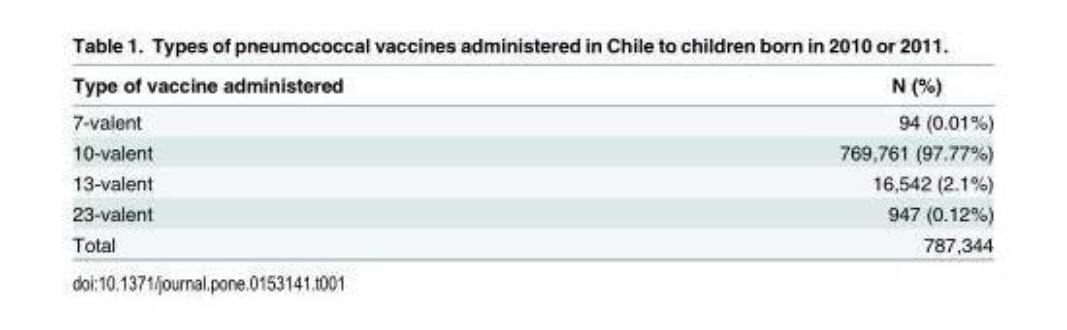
<table><thead><tr><td>Type of vaccine administered</td><td>N (%)</td></tr></thead><tbody><tr><td>7-valent</td><td>94 (0.01%)</td></tr><tr><td>10-valent</td><td>769,761 (97.77%)</td></tr><tr><td>13-valent</td><td>16,542 (2.1%)</td></tr><tr><td>23-valent</td><td>947 (0.12%)</td></tr><tr><td>Total</td><td>787,344</td></tr></tbody></table>